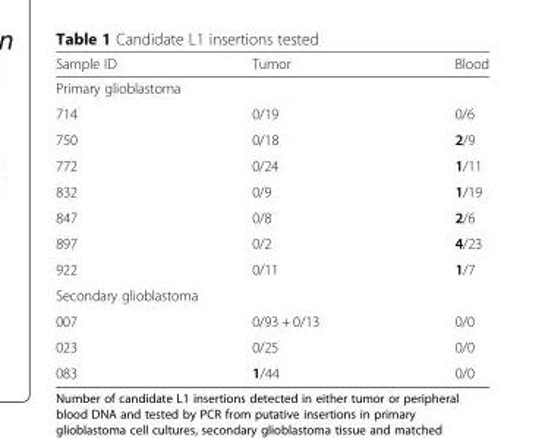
<table><thead><tr><td>Sample ID</td><td>Tumor</td><td>Blood</td></tr></thead><tbody><tr><td colspan="3">Primary glioblastoma</td></tr><tr><td>714</td><td>0/19</td><td>0/6</td></tr><tr><td>750</td><td>0/18</td><td>2/9</td></tr><tr><td>772</td><td>0/24</td><td>1/11</td></tr><tr><td>832</td><td>0/9</td><td>1/19</td></tr><tr><td>847</td><td>0/8</td><td>2/6</td></tr><tr><td>897</td><td>0/2</td><td>4/23</td></tr><tr><td>922</td><td>0/11</td><td>1/7</td></tr><tr><td colspan="3">Secondary glioblastoma</td></tr><tr><td>007</td><td>0/93 + 0/13</td><td>0/0</td></tr><tr><td>023</td><td>0/25</td><td>0/0</td></tr><tr><td>083</td><td>1/44</td><td>0/0</td></tr></tbody></table>